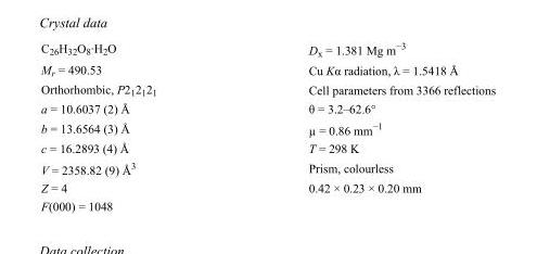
<table><tbody><tr><td>C<sub>26</sub>H<sub>32</sub>O<sub>8</sub>·H<sub>2</sub>O</td><td>D<sub>x</sub> = 1.381 Mg m<sup>−3</sup></td></tr><tr><td>M<sub>r</sub> = 490.53</td><td>Cu Kα radiation, λ = 1.5418 Å</td></tr><tr><td>Orthorhombic, P2<sub>1</sub>2<sub>1</sub>2<sub>1</sub></td><td>Cell parameters from 3366 reflections</td></tr><tr><td>a = 10.6037 (2) Å</td><td>θ = 3.2–62.6°</td></tr><tr><td>b = 13.6564 (3) Å</td><td>µ = 0.86 mm<sup>−1</sup></td></tr><tr><td>c = 16.2893 (4) Å</td><td>T = 298 K</td></tr><tr><td>V = 2358.82 (9) Å<sup>3</sup></td><td>Prism, colourless</td></tr><tr><td>Z = 4</td><td>0.42 × 0.23 × 0.20 mm</td></tr><tr><td>F(000) = 1048</td><td></td></tr></tbody></table>